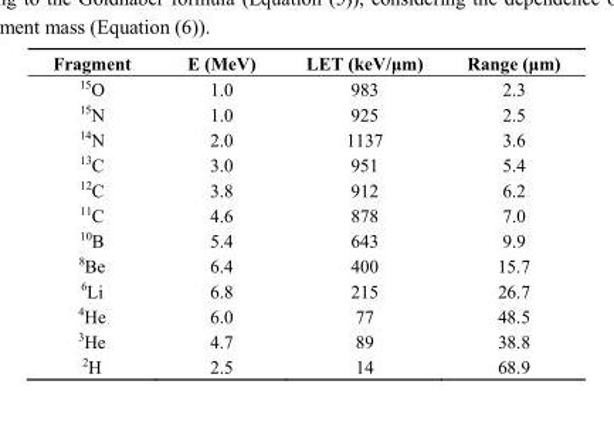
<table><thead><tr><td>Fragment</td><td>E (MeV)</td><td>LET (keV/μm)</td><td>Range (μm)</td></tr></thead><tbody><tr><td><sup>15</sup>O</td><td>1.0</td><td>983</td><td>2.3</td></tr><tr><td><sup>15</sup>N</td><td>1.0</td><td>925</td><td>2.5</td></tr><tr><td><sup>14</sup>N</td><td>2.0</td><td>1137</td><td>3.6</td></tr><tr><td><sup>13</sup>C</td><td>3.0</td><td>951</td><td>5.4</td></tr><tr><td><sup>12</sup>C</td><td>3.8</td><td>912</td><td>6.2</td></tr><tr><td><sup>11</sup>C</td><td>4.6</td><td>878</td><td>7.0</td></tr><tr><td><sup>10</sup>B</td><td>5.4</td><td>643</td><td>9.9</td></tr><tr><td><sup>8</sup>Be</td><td>6.4</td><td>400</td><td>15.7</td></tr><tr><td><sup>6</sup>Li</td><td>6.8</td><td>215</td><td>26.7</td></tr><tr><td><sup>4</sup>He</td><td>6.0</td><td>77</td><td>48.5</td></tr><tr><td><sup>3</sup>He</td><td>4.7</td><td>89</td><td>38.8</td></tr><tr><td><sup>2</sup>H</td><td>2.5</td><td>14</td><td>68.9</td></tr></tbody></table>